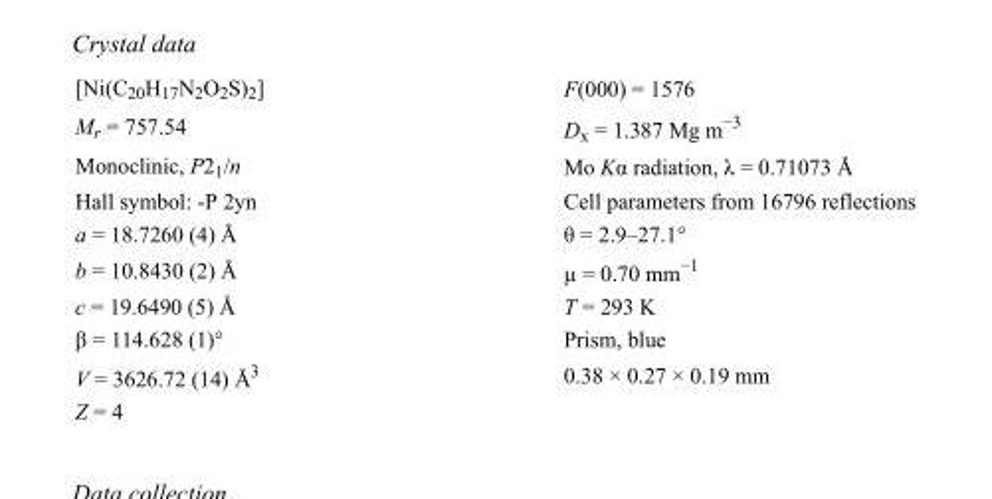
<table><tbody><tr><td>[Ni(C<sub>20</sub>H<sub>17</sub>N<sub>2</sub>O<sub>2</sub>S)<sub>2</sub>]</td><td>F(000) = 1576</td></tr><tr><td>M<sub>r</sub> = 757.54</td><td>D<sub>x</sub> = 1.387 Mg m<sup>−3</sup></td></tr><tr><td>Monoclinic, P2<sub>1</sub>/n</td><td>Mo Kα radiation, λ = 0.71073 Å</td></tr><tr><td>Hall symbol: -P 2yn</td><td>Cell parameters from 16796 reflections</td></tr><tr><td>a = 18.7260 (4) Å</td><td>θ = 2.9–27.1°</td></tr><tr><td>b = 10.8430 (2) Å</td><td>µ = 0.70 mm<sup>−1</sup></td></tr><tr><td>c = 19.6490 (5) Å</td><td>T = 293 K</td></tr><tr><td>β = 114.628 (1)°</td><td>Prism, blue</td></tr><tr><td>V = 3626.72 (14) Å<sup>3</sup></td><td>0.38 × 0.27 × 0.19 mm</td></tr><tr><td>Z = 4</td><td></td></tr></tbody></table>